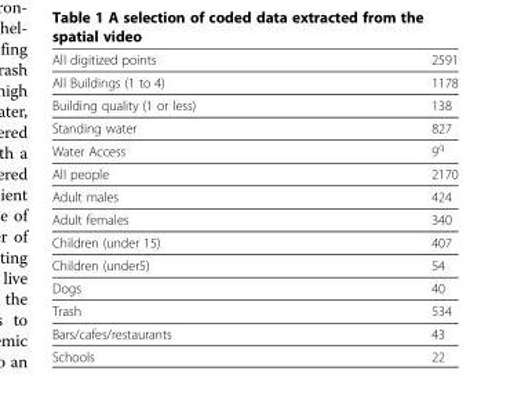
<table><tbody><tr><td>All digitized points</td><td>2591</td></tr><tr><td>All Buildings (1 to 4)</td><td>1178</td></tr><tr><td>Building quality (1 or less)</td><td>138</td></tr><tr><td>Standing water</td><td>827</td></tr><tr><td>Water Access</td><td>9<sup>q</sup></td></tr><tr><td>All people</td><td>2170</td></tr><tr><td>Adult males</td><td>424</td></tr><tr><td>Adult females</td><td>340</td></tr><tr><td>Children (under 15)</td><td>407</td></tr><tr><td>Children (under5)</td><td>54</td></tr><tr><td>Dogs</td><td>40</td></tr><tr><td>Trash</td><td>534</td></tr><tr><td>Bars/cafes/restaurants</td><td>43</td></tr><tr><td>Schools</td><td>22</td></tr></tbody></table>